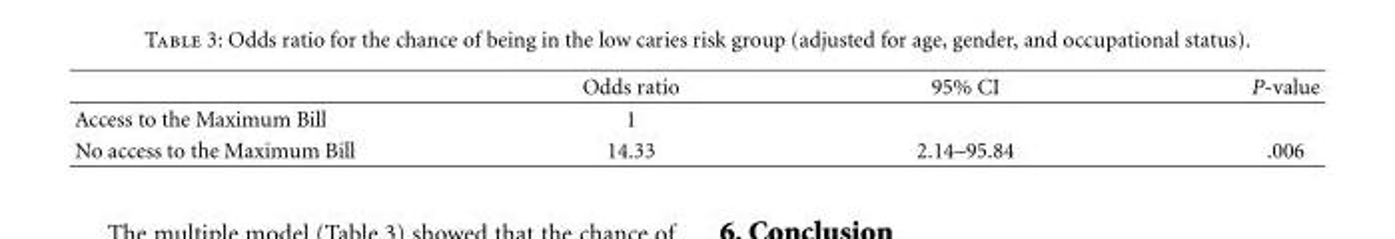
<table><thead><tr><td></td><td>Odds ratio</td><td>95% CI</td><td>P-value</td></tr></thead><tbody><tr><td>Access to the Maximum Bill</td><td>1</td><td></td><td></td></tr><tr><td>No access to the Maximum Bill</td><td>14.33</td><td>2.14–95.84</td><td>.006</td></tr></tbody></table>